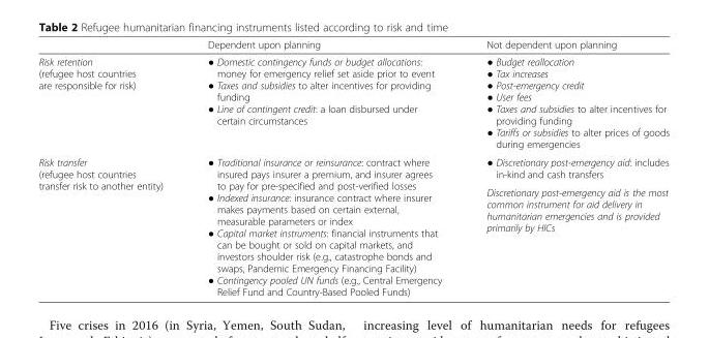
<table><thead><tr><td></td><td>Dependent upon planning</td><td>Not dependent upon planning</td></tr></thead><tbody><tr><td>Risk retention (refugee host countries are responsible for risk)</td><td>● Domestic contingency funds or budget allocations: money for emergency relief set aside prior to event ● Taxes and subsidies to alter incentives for providing funding ● Line of contingent credit: a loan disbursed under certain circumstances</td><td>● Budget reallocation ● Tax increases ● Post-emergency credit ● User fees ● Taxes and subsidies to alter incentives for providing funding ● Tariffs or subsidies to alter prices of goods during emergencies</td></tr><tr><td rowspan="2">Risk transfer (refugee host countries transfer risk to another entity)</td><td rowspan="2">● Traditional insurance or reinsurance: contract where insured pays insurer a premium, and insurer agrees to pay for pre-specified and post-verified losses ● Indexed insurance: insurance contract where insurer makes payments based on certain external, measurable parameters or index ● Capital market instruments: financial instruments that can be bought or sold on capital markets, and investors shoulder risk (e.g., catastrophe bonds and swaps, Pandemic Emergency Financing Facility) ● Contingency pooled UN funds (e.g., Central Emergency Relief Fund and Country-Based Pooled Funds)</td><td>● Discretionary post-emergency aid: includes in-kind and cash transfers</td></tr><tr><td>Discretionary post-emergency aid is the most common instrument for aid delivery in humanitarian emergencies and is provided primarily by HICs</td></tr></tbody></table>